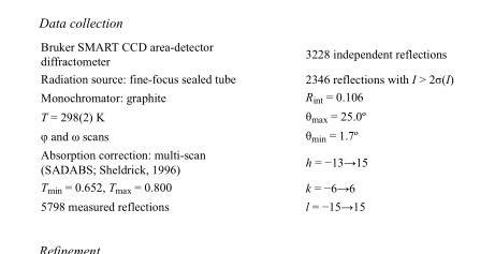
<table><tbody><tr><td>Bruker SMART CCD area-detector diffractometer</td><td>3228 independent reflections</td></tr><tr><td>Radiation source: fine-focus sealed tube</td><td>2346 reflections with I &gt; 2σ(I)</td></tr><tr><td>Monochromator: graphite</td><td>R<sub>int</sub> = 0.106</td></tr><tr><td>T = 298(2) K</td><td>θ<sub>max</sub> = 25.0º</td></tr><tr><td>φ and ω scans</td><td>θ<sub>min</sub> = 1.7º</td></tr><tr><td>Absorption correction: multi-scan (SADABS; Sheldrick, 1996)</td><td>h = −13→15</td></tr><tr><td>T<sub>min</sub> = 0.652, T<sub>max</sub> = 0.800</td><td>k = −6→6</td></tr><tr><td>5798 measured reflections</td><td>l = −15→15</td></tr></tbody></table>